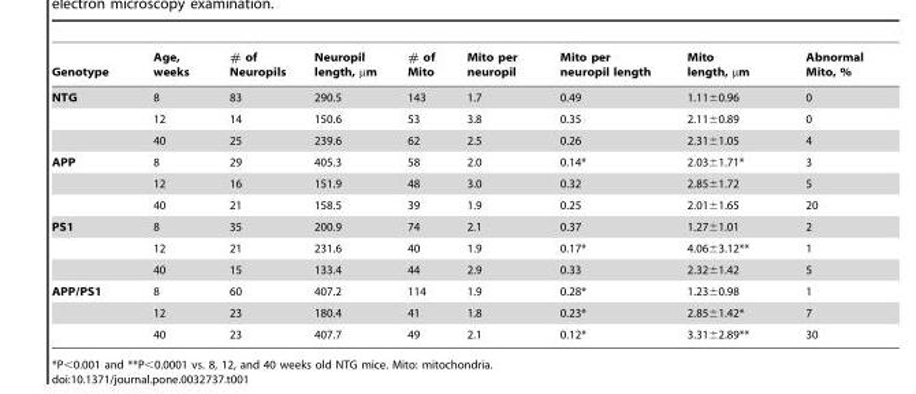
<table><thead><tr><td>Genotype</td><td>Age, weeks</td><td># of Neuropils</td><td>Neuropil length, µm</td><td># of Mito</td><td>Mito per neuropil</td><td>Mito per neuropil length</td><td>Mito length, µm</td><td>Abnormal Mito, %</td></tr></thead><tbody><tr><td rowspan="3">NTG</td><td>8</td><td>83</td><td>290.5</td><td>143</td><td>1.7</td><td>0.49</td><td>1.11±0.96</td><td>0</td></tr><tr><td>12</td><td>14</td><td>150.6</td><td>53</td><td>3.8</td><td>0.35</td><td>2.11±0.89</td><td>0</td></tr><tr><td>40</td><td>25</td><td>239.6</td><td>62</td><td>2.5</td><td>0.26</td><td>2.31±1.05</td><td>4</td></tr><tr><td rowspan="3">APP</td><td>8</td><td>29</td><td>405.3</td><td>58</td><td>2.0</td><td>0.14*</td><td>2.03±1.71*</td><td>3</td></tr><tr><td>12</td><td>16</td><td>151.9</td><td>48</td><td>3.0</td><td>0.32</td><td>2.85±1.72</td><td>5</td></tr><tr><td>40</td><td>21</td><td>158.5</td><td>39</td><td>1.9</td><td>0.25</td><td>2.01±1.65</td><td>20</td></tr><tr><td rowspan="3">PS1</td><td>8</td><td>35</td><td>200.9</td><td>74</td><td>2.1</td><td>0.37</td><td>1.27±1.01</td><td>2</td></tr><tr><td>12</td><td>21</td><td>231.6</td><td>40</td><td>1.9</td><td>0.17*</td><td>4.06±3.12**</td><td>1</td></tr><tr><td>40</td><td>15</td><td>133.4</td><td>44</td><td>2.9</td><td>0.33</td><td>2.32±1.42</td><td>5</td></tr><tr><td rowspan="3">APP/PS1</td><td>8</td><td>60</td><td>407.2</td><td>114</td><td>1.9</td><td>0.28*</td><td>1.23±0.98</td><td>1</td></tr><tr><td>12</td><td>23</td><td>180.4</td><td>41</td><td>1.8</td><td>0.23*</td><td>2.85±1.42*</td><td>7</td></tr><tr><td>40</td><td>23</td><td>407.7</td><td>49</td><td>2.1</td><td>0.12*</td><td>3.31±2.89**</td><td>30</td></tr></tbody></table>